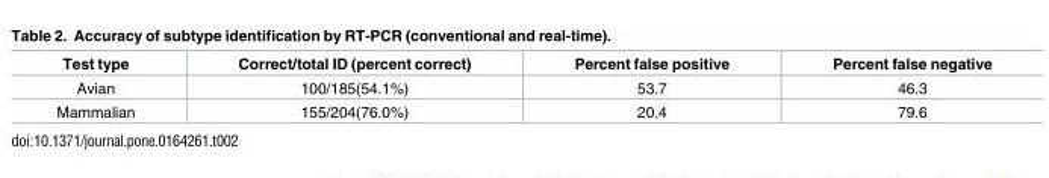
<table><thead><tr><td>Test type</td><td>Correct/total ID (percent correct)</td><td>Percent false positive</td><td>Percent false negative</td></tr></thead><tbody><tr><td>Avian</td><td>100/185(54.1%)</td><td>53.7</td><td>46.3</td></tr><tr><td>Mammalian</td><td>155/204(76.0%)</td><td>20.4</td><td>79.6</td></tr></tbody></table>